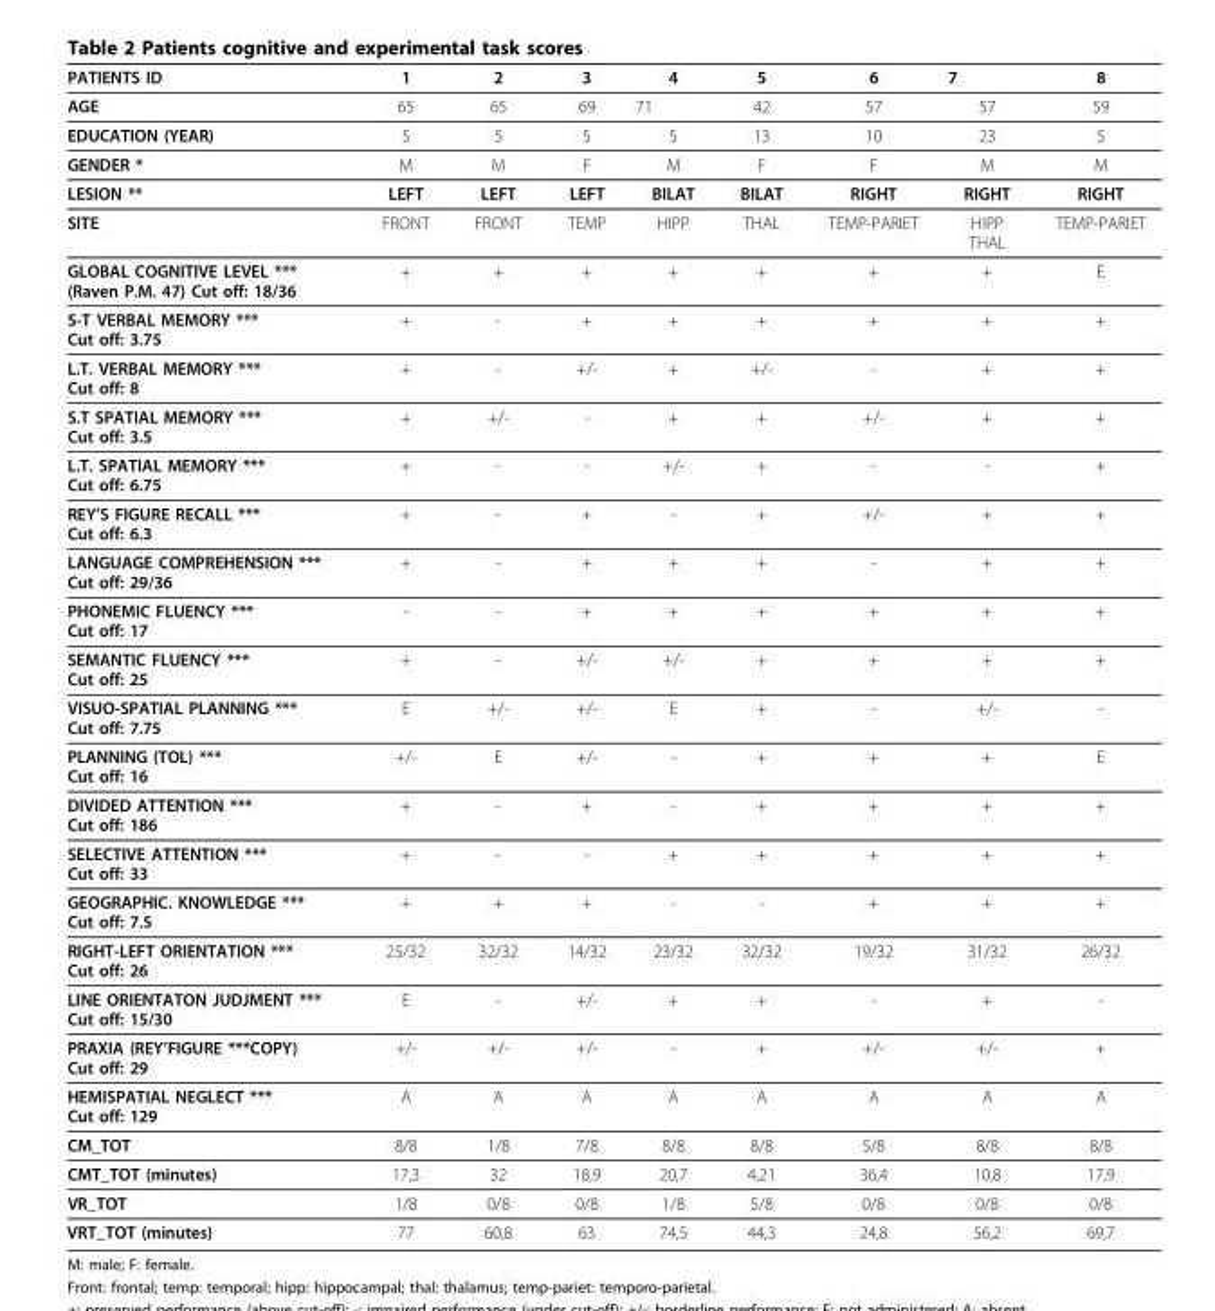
<table><thead><tr><td>PATIENTS ID</td><td>1</td><td>2</td><td>3</td><td>4</td><td>5</td><td>6</td><td>7</td><td>8</td></tr></thead><tbody><tr><td>AGE</td><td>65</td><td>65</td><td>69</td><td>71</td><td>42</td><td>57</td><td>57</td><td>59</td></tr><tr><td>EDUCATION (YEAR)</td><td>5</td><td>5</td><td>5</td><td>5</td><td>13</td><td>10</td><td>23</td><td>5</td></tr><tr><td>GENDER *</td><td>M</td><td>M</td><td>F</td><td>M</td><td>F</td><td>F</td><td>M</td><td>M</td></tr><tr><td>LESION **</td><td>LEFT</td><td>LEFT</td><td>LEFT</td><td>BILAT</td><td>BILAT</td><td>RIGHT</td><td>RIGHT</td><td>RIGHT</td></tr><tr><td>SITE</td><td>FRONT</td><td>FRONT</td><td>TEMP</td><td>HIPP</td><td>THAL</td><td>TEMP-PARIET</td><td>HIPP THAL</td><td>TEMP-PARIET</td></tr><tr><td>GLOBAL COGNITIVE LEVEL *** (Raven P.M. 47) Cut off: 18/36</td><td>+</td><td>+</td><td>+</td><td>+</td><td>+</td><td>+</td><td>+</td><td>E</td></tr><tr><td>S-T VERBAL MEMORY *** Cut off: 3.75</td><td>+</td><td>-</td><td>+</td><td>+</td><td>+</td><td>+</td><td>+</td><td>+</td></tr><tr><td>L.T. VERBAL MEMORY *** Cut off: 8</td><td>+</td><td>-</td><td>+/-</td><td>+</td><td>+/-</td><td>-</td><td>+</td><td>+</td></tr><tr><td>S.T SPATIAL MEMORY *** Cut off: 3.5</td><td>+</td><td>+/-</td><td>-</td><td>+</td><td>+</td><td>+/-</td><td>+</td><td>+</td></tr><tr><td>L.T. SPATIAL MEMORY *** Cut off: 6.75</td><td>+</td><td>-</td><td>-</td><td>+/-</td><td>+</td><td>-</td><td>-</td><td>+</td></tr><tr><td>REY’S FIGURE RECALL *** Cut off: 6.3</td><td>+</td><td>-</td><td>+</td><td>-</td><td>+</td><td>+/-</td><td>+</td><td>+</td></tr><tr><td>LANGUAGE COMPREHENSION *** Cut off: 29/36</td><td>+</td><td>-</td><td>+</td><td>+</td><td>+</td><td>-</td><td>+</td><td>+</td></tr><tr><td>PHONEMIC FLUENCY *** Cut off: 17</td><td>-</td><td>-</td><td>+</td><td>+</td><td>+</td><td>+</td><td>+</td><td>+</td></tr><tr><td>SEMANTIC FLUENCY *** Cut off: 25</td><td>+</td><td>-</td><td>+/-</td><td>+/-</td><td>+</td><td>+</td><td>+</td><td>+</td></tr><tr><td>VISUO-SPATIAL PLANNING *** Cut off: 7.75</td><td>E</td><td>+/-</td><td>+/-</td><td>E</td><td>+</td><td>-</td><td>+/-</td><td>-</td></tr><tr><td>PLANNING (TOL) *** Cut off: 16</td><td>+/-</td><td>E</td><td>+/-</td><td>-</td><td>+</td><td>+</td><td>+</td><td>E</td></tr><tr><td>DIVIDED ATTENTION *** Cut off: 186</td><td>+</td><td>-</td><td>+</td><td>-</td><td>+</td><td>+</td><td>+</td><td>+</td></tr><tr><td>SELECTIVE ATTENTION *** Cut off: 33</td><td>+</td><td>-</td><td>-</td><td>+</td><td>+</td><td>+</td><td>+</td><td>+</td></tr><tr><td>GEOGRAPHIC. KNOWLEDGE *** Cut off: 7.5</td><td>+</td><td>+</td><td>+</td><td>-</td><td>-</td><td>+</td><td>+</td><td>+</td></tr><tr><td>RIGHT-LEFT ORIENTATION *** Cut off: 26</td><td>25/32</td><td>32/32</td><td>14/32</td><td>23/32</td><td>32/32</td><td>19/32</td><td>31/32</td><td>26/32</td></tr><tr><td>LINE ORIENTATON JUDJMENT *** Cut off: 15/30</td><td>E</td><td>-</td><td>+/-</td><td>+</td><td>+</td><td>-</td><td>+</td><td>-</td></tr><tr><td>PRAXIA (REY’FIGURE ***COPY) Cut off: 29</td><td>+/-</td><td>+/-</td><td>+/-</td><td>-</td><td>+</td><td>+/-</td><td>+/-</td><td>+</td></tr><tr><td>HEMISPATIAL NEGLECT *** Cut off: 129</td><td>A</td><td>A</td><td>A</td><td>A</td><td>A</td><td>A</td><td>A</td><td>A</td></tr><tr><td>CM_TOT</td><td>8/8</td><td>1/8</td><td>7/8</td><td>8/8</td><td>8/8</td><td>5/8</td><td>8/8</td><td>8/8</td></tr><tr><td>CMT_TOT (minutes)</td><td>17,3</td><td>32</td><td>18,9</td><td>20,7</td><td>4,21</td><td>36,4</td><td>10,8</td><td>17,9</td></tr><tr><td>VR_TOT</td><td>1/8</td><td>0/8</td><td>0/8</td><td>1/8</td><td>5/8</td><td>0/8</td><td>0/8</td><td>0/8</td></tr><tr><td>VRT_TOT (minutes)</td><td>77</td><td>60,8</td><td>63</td><td>74,5</td><td>44,3</td><td>24,8</td><td>56,2</td><td>69,7</td></tr></tbody></table>